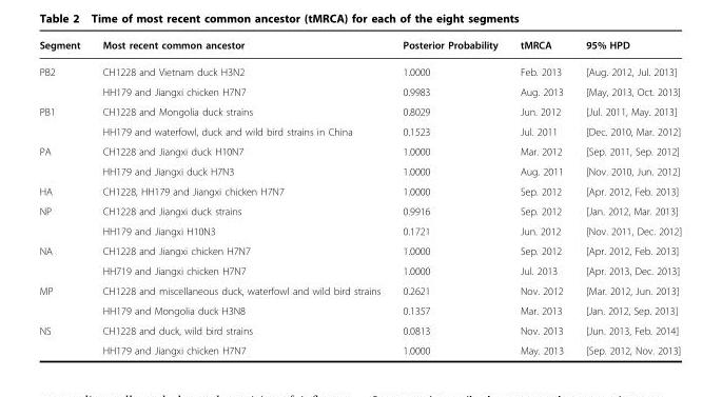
<table><thead><tr><td>Segment</td><td>Most recent common ancestor</td><td>Posterior Probability</td><td>tMRCA</td><td>95% HPD</td></tr></thead><tbody><tr><td rowspan="2">PB2</td><td>CH1228 and Vietnam duck H3N2</td><td>1.0000</td><td>Feb. 2013</td><td>[Aug. 2012, Jul. 2013]</td></tr><tr><td>HH179 and Jiangxi chicken H7N7</td><td>0.9983</td><td>Aug. 2013</td><td>[May, 2013, Oct. 2013]</td></tr><tr><td rowspan="2">PB1</td><td>CH1228 and Mongolia duck strains</td><td>0.8029</td><td>Jun. 2012</td><td>[Jul. 2011, May. 2013]</td></tr><tr><td>HH179 and waterfowl, duck and wild bird strains in China</td><td>0.1523</td><td>Jul. 2011</td><td>[Dec. 2010, Mar. 2012]</td></tr><tr><td rowspan="2">PA</td><td>CH1228 and Jiangxi duck H10N7</td><td>1.0000</td><td>Mar. 2012</td><td>[Sep. 2011, Sep. 2012]</td></tr><tr><td>HH179 and Jiangxi duck H7N3</td><td>1.0000</td><td>Aug. 2011</td><td>[Nov. 2010, Jun. 2012]</td></tr><tr><td>HA</td><td>CH1228, HH179 and Jiangxi chicken H7N7</td><td>1.0000</td><td>Sep. 2012</td><td>[Apr. 2012, Feb. 2013]</td></tr><tr><td rowspan="2">NP</td><td>CH1228 and Jiangxi duck strains</td><td>0.9916</td><td>Sep. 2012</td><td>[Jan. 2012, Mar. 2013]</td></tr><tr><td>HH179 and Jiangxi H10N3</td><td>0.1721</td><td>Jun. 2012</td><td>[Nov. 2011, Dec. 2012]</td></tr><tr><td rowspan="2">NA</td><td>CH1228 and Jiangxi chicken H7N7</td><td>1.0000</td><td>Sep. 2012</td><td>[Apr. 2012, Feb. 2013]</td></tr><tr><td>HH719 and Jiangxi chicken H7N7</td><td>1.0000</td><td>Jul. 2013</td><td>[Apr. 2013, Dec. 2013]</td></tr><tr><td rowspan="2">MP</td><td>CH1228 and miscellaneous duck, waterfowl and wild bird strains</td><td>0.2621</td><td>Nov. 2012</td><td>[Mar. 2012, Jun. 2013]</td></tr><tr><td>HH179 and Mongolia duck H3N8</td><td>0.1357</td><td>Mar. 2013</td><td>[Jan. 2012, Sep. 2013]</td></tr><tr><td rowspan="2">NS</td><td>CH1228 and duck, wild bird strains</td><td>0.0813</td><td>Nov. 2013</td><td>[Jun. 2013, Feb. 2014]</td></tr><tr><td>HH179 and Jiangxi chicken H7N7</td><td>1.0000</td><td>May. 2013</td><td>[Sep. 2012, Nov. 2013]</td></tr></tbody></table>